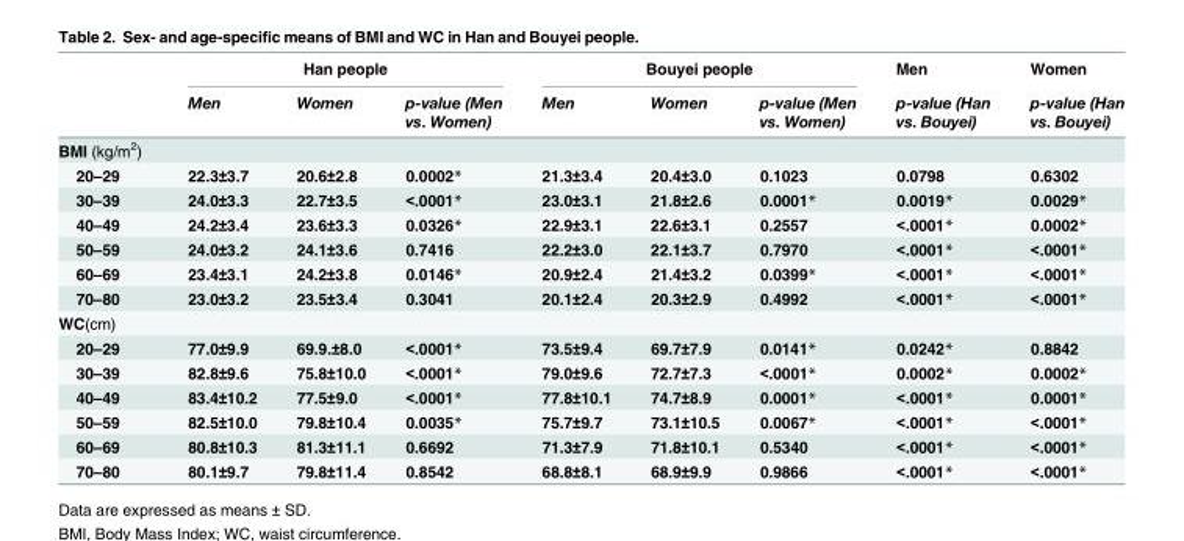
<table><thead><tr><td rowspan="2"></td><td colspan="3">Han people</td><td colspan="3">Bouyei people</td><td rowspan="2">Men p-value (Han vs. Bouyei)</td><td rowspan="2">Women p-value (Han vs. Bouyei)</td></tr><tr><td>Men</td><td>Women</td><td>p-value (Men vs. Women)</td><td>Men</td><td>Women</td><td>p-value (Men vs. Women)</td></tr></thead><tbody><tr><td colspan="9">BMI (kg/m<sup>2</sup>)</td></tr><tr><td>20–29</td><td>22.3±3.7</td><td>20.6±2.8</td><td>0.0002*</td><td>21.3±3.4</td><td>20.4±3.0</td><td>0.1023</td><td>0.0798</td><td>0.6302</td></tr><tr><td>30–39</td><td>24.0±3.3</td><td>22.7±3.5</td><td>&lt;.0001*</td><td>23.0±3.1</td><td>21.8±2.6</td><td>0.0001*</td><td>0.0019*</td><td>0.0029*</td></tr><tr><td>40–49</td><td>24.2±3.4</td><td>23.6±3.3</td><td>0.0326*</td><td>22.9±3.1</td><td>22.6±3.1</td><td>0.2557</td><td>&lt;.0001*</td><td>0.0002*</td></tr><tr><td>50–59</td><td>24.0±3.2</td><td>24.1±3.6</td><td>0.7416</td><td>22.2±3.0</td><td>22.1±3.7</td><td>0.7970</td><td>&lt;.0001*</td><td>&lt;.0001*</td></tr><tr><td>60–69</td><td>23.4±3.1</td><td>24.2±3.8</td><td>0.0146*</td><td>20.9±2.4</td><td>21.4±3.2</td><td>0.0399*</td><td>&lt;.0001*</td><td>&lt;.0001*</td></tr><tr><td>70–80</td><td>23.0±3.2</td><td>23.5±3.4</td><td>0.3041</td><td>20.1±2.4</td><td>20.3±2.9</td><td>0.4992</td><td>&lt;.0001*</td><td>&lt;.0001*</td></tr><tr><td colspan="9">WC(cm)</td></tr><tr><td>20–29</td><td>77.0±9.9</td><td>69.9.±8.0</td><td>&lt;.0001*</td><td>73.5±9.4</td><td>69.7±7.9</td><td>0.0141*</td><td>0.0242*</td><td>0.8842</td></tr><tr><td>30–39</td><td>82.8±9.6</td><td>75.8±10.0</td><td>&lt;.0001*</td><td>79.0±9.6</td><td>72.7±7.3</td><td>&lt;.0001*</td><td>0.0002*</td><td>0.0002*</td></tr><tr><td>40–49</td><td>83.4±10.2</td><td>77.5±9.0</td><td>&lt;.0001*</td><td>77.8±10.1</td><td>74.7±8.9</td><td>0.0001*</td><td>&lt;.0001*</td><td>0.0001*</td></tr><tr><td>50–59</td><td>82.5±10.0</td><td>79.8±10.4</td><td>0.0035*</td><td>75.7±9.7</td><td>73.1±10.5</td><td>0.0067*</td><td>&lt;.0001*</td><td>&lt;.0001*</td></tr><tr><td>60–69</td><td>80.8±10.3</td><td>81.3±11.1</td><td>0.6692</td><td>71.3±7.9</td><td>71.8±10.1</td><td>0.5340</td><td>&lt;.0001*</td><td>&lt;.0001*</td></tr><tr><td>70–80</td><td>80.1±9.7</td><td>79.8±11.4</td><td>0.8542</td><td>68.8±8.1</td><td>68.9±9.9</td><td>0.9866</td><td>&lt;.0001*</td><td>&lt;.0001*</td></tr></tbody></table>